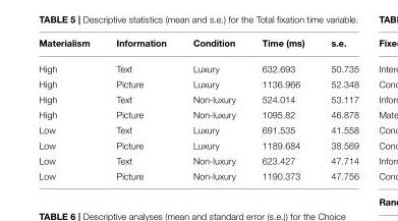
<table><thead><tr><td>Materialism</td><td>Information</td><td>Condition</td><td>Time (ms)</td><td>s.e.</td></tr></thead><tbody><tr><td>High</td><td>Text</td><td>Luxury</td><td>632.693</td><td>50.735</td></tr><tr><td>High</td><td>Picture</td><td>Luxury</td><td>1136.966</td><td>52.348</td></tr><tr><td>High</td><td>Text</td><td>Non-luxury</td><td>524.014</td><td>53.117</td></tr><tr><td>High</td><td>Picture</td><td>Non-luxury</td><td>1095.82</td><td>46.878</td></tr><tr><td>Low</td><td>Text</td><td>Luxury</td><td>691.535</td><td>41.558</td></tr><tr><td>Low</td><td>Picture</td><td>Luxury</td><td>1189.684</td><td>38.569</td></tr><tr><td>Low</td><td>Text</td><td>Non-luxury</td><td>623.427</td><td>47.714</td></tr><tr><td>Low</td><td>Picture</td><td>Non-luxury</td><td>1190.373</td><td>47.756</td></tr></tbody></table>